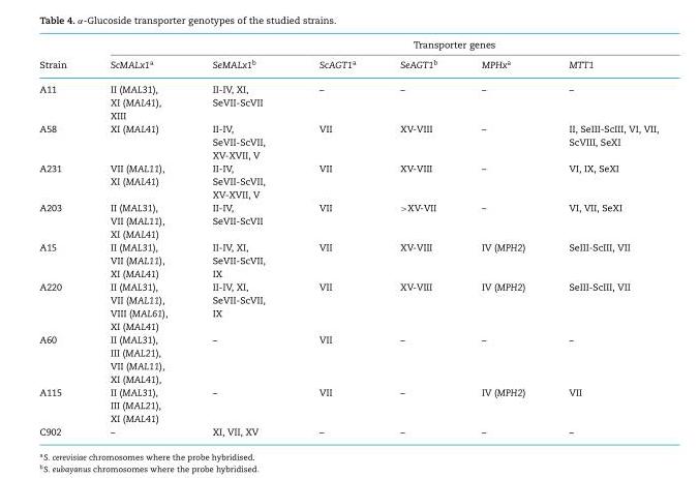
<table><thead><tr><td rowspan="2">Strain</td><td colspan="6">Transporter genes</td></tr><tr><td>ScMALx1<sup>a</sup></td><td>SeMALx1<sup>b</sup></td><td>ScAGT1<sup>a</sup></td><td>SeAGT1<sup>b</sup></td><td>MPHx<sup>a</sup></td><td>MTT1</td></tr></thead><tbody><tr><td>A11</td><td>II (MAL31), XI (MAL41), XIII</td><td>II-IV, XI, SeVII-ScVII</td><td>–</td><td>–</td><td>–</td><td>–</td></tr><tr><td>A58</td><td>XI (MAL41)</td><td>II-IV, SeVII-ScVII, XV-XVII, V</td><td>VII</td><td>XV-VIII</td><td>–</td><td>II, SeIII-ScIII, VI, VII, ScVIII, SeXI</td></tr><tr><td>A231</td><td>VII (MAL11), XI (MAL41)</td><td>II-IV, SeVII-ScVII, XV-XVII, V</td><td>VII</td><td>XV-VIII</td><td>–</td><td>VI, IX, SeXI</td></tr><tr><td>A203</td><td>II (MAL31), VII (MAL11), XI (MAL41)</td><td>II-IV, SeVII-ScVII</td><td>VII</td><td>&gt;XV-VII</td><td>–</td><td>VI, VII, SeXI</td></tr><tr><td>A15</td><td>II (MAL31), VII (MAL11), XI (MAL41)</td><td>II-IV, XI, SeVII-ScVII, IX</td><td>VII</td><td>XV-VIII</td><td>IV (MPH2)</td><td>SeIII-ScIII, VII</td></tr><tr><td>A220</td><td>II (MAL31), VII (MAL11), VIII (MAL61), XI (MAL41)</td><td>II-IV, XI, SeVII-ScVII, IX</td><td>VII</td><td>XV-VIII</td><td>IV (MPH2)</td><td>SeIII-ScIII, VII</td></tr><tr><td>A60</td><td>II (MAL31), III (MAL21), VII (MAL11), XI (MAL41),</td><td>–</td><td>VII</td><td>–</td><td>–</td><td>–</td></tr><tr><td>A115</td><td>II (MAL31), III (MAL21), XI (MAL41)</td><td>–</td><td>VII</td><td>–</td><td>IV (MPH2)</td><td>VII</td></tr><tr><td>C902</td><td>–</td><td>XI, VII, XV</td><td>–</td><td>–</td><td>–</td><td>–</td></tr></tbody></table>